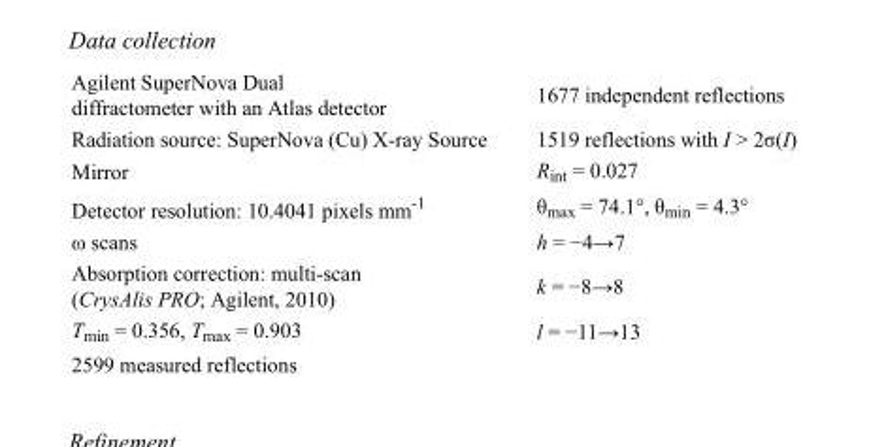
<table><tbody><tr><td>Agilent SuperNova Dual diffractometer with an Atlas detector</td><td>1677 independent reflections</td></tr><tr><td>Radiation source: SuperNova (Cu) X-ray Source</td><td>1519 reflections with I &gt; 2σ(I)</td></tr><tr><td>Mirror</td><td>R<sub>int</sub> = 0.027</td></tr><tr><td>Detector resolution: 10.4041 pixels mm<sup>-1</sup></td><td>θ<sub>max</sub> = 74.1°, θ<sub>min</sub> = 4.3°</td></tr><tr><td>ω scans</td><td>h = −4→7</td></tr><tr><td>Absorption correction: multi-scan (CrysAlis PRO; Agilent, 2010)</td><td>k = −8→8</td></tr><tr><td>T<sub>min</sub> = 0.356, T<sub>max</sub> = 0.903</td><td>l = −11→13</td></tr><tr><td>2599 measured reflections</td><td></td></tr></tbody></table>